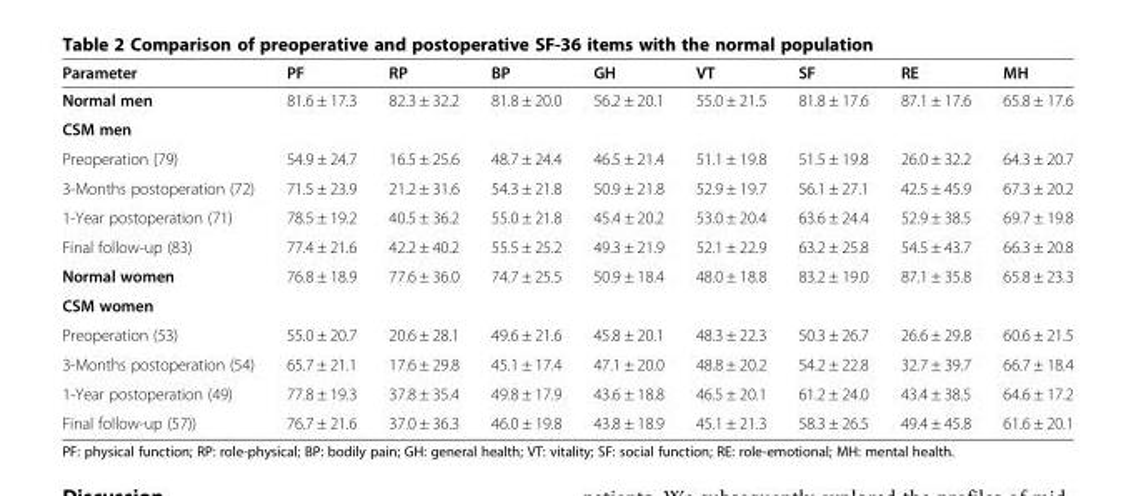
<table><thead><tr><td>Parameter</td><td>PF</td><td>RP</td><td>BP</td><td>GH</td><td>VT</td><td>SF</td><td>RE</td><td>MH</td></tr></thead><tbody><tr><td>Normal men</td><td>81.6 ± 17.3</td><td>82.3 ± 32.2</td><td>81.8 ± 20.0</td><td>56.2 ± 20.1</td><td>55.0 ± 21.5</td><td>81.8 ± 17.6</td><td>87.1 ± 17.6</td><td>65.8 ± 17.6</td></tr><tr><td colspan="9">CSM men</td></tr><tr><td>Preoperation {79)</td><td>54.9 ± 24.7</td><td>16.5 ± 25.6</td><td>48.7 ± 24.4</td><td>46.5 ± 21.4</td><td>51.1 ± 19.8</td><td>51.5 ± 19.8</td><td>26.0 ± 32.2</td><td>64.3 ± 20.7</td></tr><tr><td>3-Months postoperation (72)</td><td>71.5 ± 23.9</td><td>21.2 ± 31.6</td><td>54.3 ± 21.8</td><td>50.9 ± 21.8</td><td>52.9 ± 19.7</td><td>56.1 ± 27.1</td><td>42.5 ± 45.9</td><td>67.3 ± 20.2</td></tr><tr><td>1-Year postoperation (71)</td><td>78.5 ± 19.2</td><td>40.5 ± 36.2</td><td>55.0 ± 21.8</td><td>45.4 ± 20.2</td><td>53.0 ± 20.4</td><td>63.6 ± 24.4</td><td>52.9 ± 38.5</td><td>69.7 ± 19.8</td></tr><tr><td>Final follow-up (83)</td><td>77.4 ± 21.6</td><td>42.2 ± 40.2</td><td>55.5 ± 25.2</td><td>49.3 ± 21.9</td><td>52.1 ± 22.9</td><td>63.2 ± 25.8</td><td>54.5 ± 43.7</td><td>66.3 ± 20.8</td></tr><tr><td>Normal women</td><td>76.8 ± 18.9</td><td>77.6 ± 36.0</td><td>74.7 ± 25.5</td><td>50.9 ± 18.4</td><td>48.0 ± 18.8</td><td>83.2 ± 19.0</td><td>87.1 ± 35.8</td><td>65.8 ± 23.3</td></tr><tr><td colspan="9">CSM women</td></tr><tr><td>Preoperation (53)</td><td>55.0 ± 20.7</td><td>20.6 ± 28.1</td><td>49.6 ± 21.6</td><td>45.8 ± 20.1</td><td>48.3 ± 22.3</td><td>50.3 ± 26.7</td><td>26.6 ± 29.8</td><td>60.6 ± 21.5</td></tr><tr><td>3-Months postoperation (54)</td><td>65.7 ± 21.1</td><td>17.6 ± 29.8</td><td>45.1 ± 17.4</td><td>47.1 ± 20.0</td><td>48.8 ± 20.2</td><td>54.2 ± 22.8</td><td>32.7 ± 39.7</td><td>66.7 ± 18.4</td></tr><tr><td>1-Year postoperation (49)</td><td>77.8 ± 19.3</td><td>37.8 ± 35.4</td><td>49.8 ± 17.9</td><td>43.6 ± 18.8</td><td>46.5 ± 20.1</td><td>61.2 ± 24.0</td><td>43.4 ± 38.5</td><td>64.6 ± 17.2</td></tr><tr><td>Final follow-up (57))</td><td>76.7 ± 21.6</td><td>37.0 ± 36.3</td><td>46.0 ± 19.8</td><td>43.8 ± 18.9</td><td>45.1 ± 21.3</td><td>58.3 ± 26.5</td><td>49.4 ± 45.8</td><td>61.6 ± 20.1</td></tr></tbody></table>